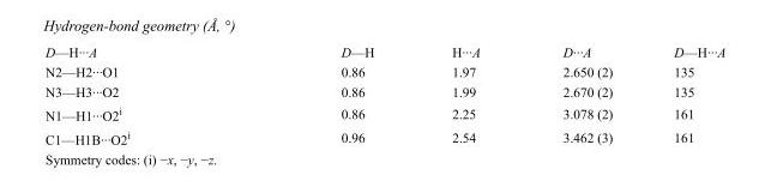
<table><tbody><tr><td>D—H···A</td><td>D—H</td><td>H···A</td><td>D···A</td><td>D—H···A</td></tr><tr><td>N2—H2···O1</td><td>0.86</td><td>1.97</td><td>2.650 (2)</td><td>135</td></tr><tr><td>N3—H3···O2</td><td>0.86</td><td>1.99</td><td>2.670 (2)</td><td>135</td></tr><tr><td>N1—H1···O2<sup>i</sup></td><td>0.86</td><td>2.25</td><td>3.078 (2)</td><td>161</td></tr><tr><td>C1—H1B···O2<sup>i</sup></td><td>0.96</td><td>2.54</td><td>3.462 (3)</td><td>161</td></tr></tbody></table>